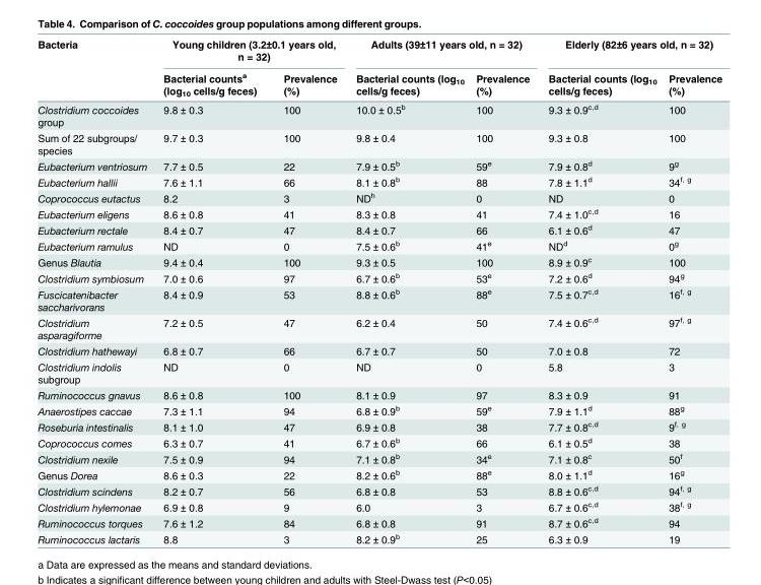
<table><thead><tr><td rowspan="2">Bacteria</td><td colspan="2">Young children (3.2±0.1 years old, n = 32)</td><td colspan="2">Adults (39±11 years old, n = 32)</td><td colspan="2">Elderly (82±6 years old, n = 32)</td></tr><tr><td>Bacterial counts<sup>a</sup> (log<sub>10</sub> cells/g feces)</td><td>Prevalence (%)</td><td>Bacterial counts (log<sub>10</sub> cells/g feces)</td><td>Prevalence (%)</td><td>Bacterial counts (log<sub>10</sub> cells/g feces)</td><td>Prevalence (%)</td></tr></thead><tbody><tr><td>Clostridium coccoides group</td><td>9.8 ± 0.3</td><td>100</td><td>10.0 ± 0.5<sup>b</sup></td><td>100</td><td>9.3 ± 0.9<sup>c,d</sup></td><td>100</td></tr><tr><td>Sum of 22 subgroups/ species</td><td>9.7 ± 0.3</td><td>100</td><td>9.8 ± 0.4</td><td>100</td><td>9.3 ± 0.8</td><td>100</td></tr><tr><td>Eubacterium ventriosum</td><td>7.7 ± 0.5</td><td>22</td><td>7.9 ± 0.5<sup>b</sup></td><td>59<sup>e</sup></td><td>7.9 ± 0.8<sup>d</sup></td><td>9<sup>g</sup></td></tr><tr><td>Eubacterium hallii</td><td>7.6 ± 1.1</td><td>66</td><td>8.1 ± 0.8<sup>b</sup></td><td>88</td><td>7.8 ± 1.1<sup>d</sup></td><td>34<sup>f, g</sup></td></tr><tr><td>Coprococcus eutactus</td><td>8.2</td><td>3</td><td>ND<sup>h</sup></td><td>0</td><td>ND</td><td>0</td></tr><tr><td>Eubacterium eligens</td><td>8.6 ± 0.8</td><td>41</td><td>8.3 ± 0.8</td><td>41</td><td>7.4 ± 1.0<sup>c,d</sup></td><td>16</td></tr><tr><td>Eubacterium rectale</td><td>8.4 ± 0.7</td><td>47</td><td>8.4 ± 0.7</td><td>66</td><td>6.1 ± 0.6<sup>d</sup></td><td>47</td></tr><tr><td>Eubacterium ramulus</td><td>ND</td><td>0</td><td>7.5 ± 0.6<sup>b</sup></td><td>41<sup>e</sup></td><td>ND<sup>d</sup></td><td>0<sup>g</sup></td></tr><tr><td>Genus Blautia</td><td>9.4 ± 0.4</td><td>100</td><td>9.3 ± 0.5</td><td>100</td><td>8.9 ± 0.9<sup>c</sup></td><td>100</td></tr><tr><td>Clostridium symbiosum</td><td>7.0 ± 0.6</td><td>97</td><td>6.7 ± 0.6<sup>b</sup></td><td>53<sup>e</sup></td><td>7.2 ± 0.6<sup>d</sup></td><td>94<sup>g</sup></td></tr><tr><td>Fuscicatenibacter saccharivorans</td><td>8.4 ± 0.9</td><td>53</td><td>8.8 ± 0.6<sup>b</sup></td><td>88<sup>e</sup></td><td>7.5 ± 0.7<sup>c,d</sup></td><td>16<sup>f, g</sup></td></tr><tr><td>Clostridium asparagiforme</td><td>7.2 ± 0.5</td><td>47</td><td>6.2 ± 0.4</td><td>50</td><td>7.4 ± 0.6<sup>c,d</sup></td><td>97<sup>f, g</sup></td></tr><tr><td>Clostridium hathewayi</td><td>6.8 ± 0.7</td><td>66</td><td>6.7 ± 0.7</td><td>50</td><td>7.0 ± 0.8</td><td>72</td></tr><tr><td>Clostridium indolis subgroup</td><td>ND</td><td>0</td><td>ND</td><td>0</td><td>5.8</td><td>3</td></tr><tr><td>Ruminococcus gnavus</td><td>8.6 ± 0.8</td><td>100</td><td>8.1 ± 0.9</td><td>97</td><td>8.3 ± 0.9</td><td>91</td></tr><tr><td>Anaerostipes caccae</td><td>7.3 ± 1.1</td><td>94</td><td>6.8 ± 0.9<sup>b</sup></td><td>59<sup>e</sup></td><td>7.9 ± 1.1<sup>d</sup></td><td>88<sup>g</sup></td></tr><tr><td>Roseburia intestinalis</td><td>8.1 ± 1.0</td><td>47</td><td>6.9 ± 0.8</td><td>38</td><td>7.7 ± 0.8<sup>c,d</sup></td><td>9<sup>f, g</sup></td></tr><tr><td>Coprococcus comes</td><td>6.3 ± 0.7</td><td>41</td><td>6.7 ± 0.6<sup>b</sup></td><td>66</td><td>6.1 ± 0.5<sup>d</sup></td><td>38</td></tr><tr><td>Clostridium nexile</td><td>7.5 ± 0.9</td><td>94</td><td>7.1 ± 0.8<sup>b</sup></td><td>34<sup>e</sup></td><td>7.1 ± 0.8<sup>c</sup></td><td>50<sup>f</sup></td></tr><tr><td>Genus Dorea</td><td>8.6 ± 0.3</td><td>22</td><td>8.2 ± 0.6<sup>b</sup></td><td>88<sup>e</sup></td><td>8.0 ± 1.1<sup>d</sup></td><td>16<sup>g</sup></td></tr><tr><td>Clostridium scindens</td><td>8.2 ± 0.7</td><td>56</td><td>6.8 ± 0.8</td><td>53</td><td>8.8 ± 0.6<sup>c,d</sup></td><td>94<sup>f, g</sup></td></tr><tr><td>Clostridium hylemonae</td><td>6.9 ± 0.8</td><td>9</td><td>6.0</td><td>3</td><td>6.7 ± 0.6<sup>c,d</sup></td><td>38<sup>f, g</sup></td></tr><tr><td>Ruminococcus torques</td><td>7.6 ± 1.2</td><td>84</td><td>6.8 ± 0.8</td><td>91</td><td>8.7 ± 0.6<sup>c,d</sup></td><td>94</td></tr><tr><td>Ruminococcus lactaris</td><td>8.8</td><td>3</td><td>8.2 ± 0.9<sup>b</sup></td><td>25</td><td>6.3 ± 0.9</td><td>19</td></tr></tbody></table>